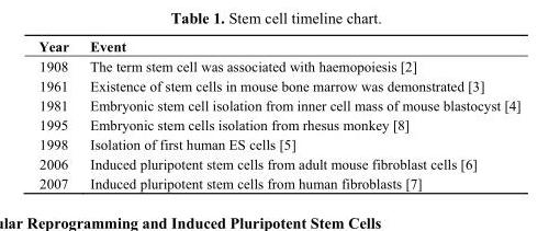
<table><thead><tr><td>Year</td><td>Event</td></tr></thead><tbody><tr><td>1908</td><td>The term stem cell was associated with haemopoiesis [2]</td></tr><tr><td>1961</td><td>Existence of stem cells in mouse bone marrow was demonstrated [3]</td></tr><tr><td>1981</td><td>Embryonic stem cell isolation from inner cell mass of mouse blastocyst [4]</td></tr><tr><td>1995</td><td>Embryonic stem cells isolation from rhesus monkey [8]</td></tr><tr><td>1998</td><td>Isolation of first human ES cells [5]</td></tr><tr><td>2006</td><td>Induced pluripotent stem cells from adult mouse fibroblast cells [6]</td></tr><tr><td>2007</td><td>Induced pluripotent stem cells from human fibroblasts [7]</td></tr></tbody></table>